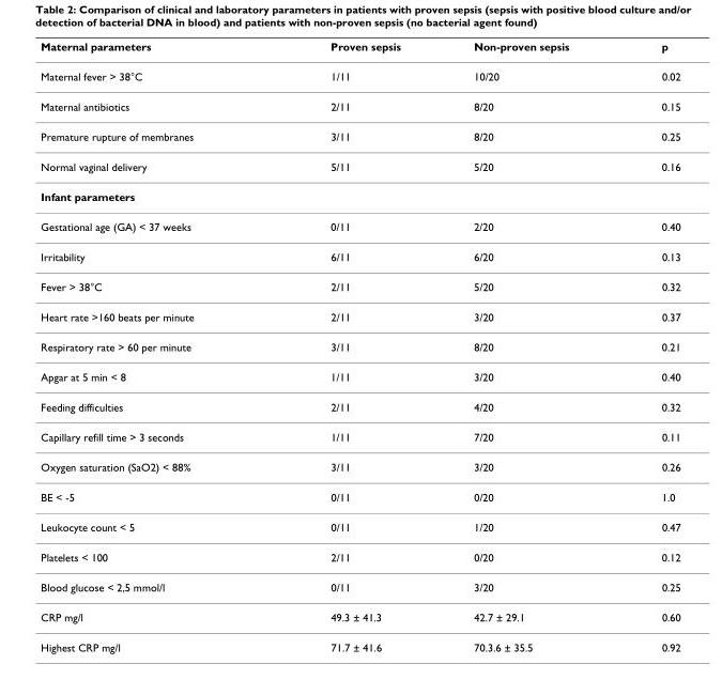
<table><thead><tr><td>Maternal parameters</td><td>Proven sepsis</td><td>Non-proven sepsis</td><td>p</td></tr></thead><tbody><tr><td>Maternal fever &gt; 38°C</td><td>1/11</td><td>10/20</td><td>0.02</td></tr><tr><td>Maternal antibiotics</td><td>2/11</td><td>8/20</td><td>0.15</td></tr><tr><td>Premature rupture of membranes</td><td>3/11</td><td>8/20</td><td>0.25</td></tr><tr><td>Normal vaginal delivery</td><td>5/11</td><td>5/20</td><td>0.16</td></tr><tr><td colspan="4">Infant parameters</td></tr><tr><td>Gestational age (GA) &lt; 37 weeks</td><td>0/11</td><td>2/20</td><td>0.40</td></tr><tr><td>Irritability</td><td>6/11</td><td>6/20</td><td>0.13</td></tr><tr><td>Fever &gt; 38°C</td><td>2/11</td><td>5/20</td><td>0.32</td></tr><tr><td>Heart rate &gt;160 beats per minute</td><td>2/11</td><td>3/20</td><td>0.37</td></tr><tr><td>Respiratory rate &gt; 60 per minute</td><td>3/11</td><td>8/20</td><td>0.21</td></tr><tr><td>Apgar at 5 min &lt; 8</td><td>1/11</td><td>3/20</td><td>0.40</td></tr><tr><td>Feeding difficulties</td><td>2/11</td><td>4/20</td><td>0.32</td></tr><tr><td>Capillary refill time &gt; 3 seconds</td><td>1/11</td><td>7/20</td><td>0.11</td></tr><tr><td>Oxygen saturation (SaO2) &lt; 88%</td><td>3/11</td><td>3/20</td><td>0.26</td></tr><tr><td>BE &lt; -5</td><td>0/11</td><td>0/20</td><td>1.0</td></tr><tr><td>Leukocyte count &lt; 5</td><td>0/11</td><td>1/20</td><td>0.47</td></tr><tr><td>Platelets &lt; 100</td><td>2/11</td><td>0/20</td><td>0.12</td></tr><tr><td>Blood glucose &lt; 2,5 mmol/l</td><td>0/11</td><td>3/20</td><td>0.25</td></tr><tr><td>CRP mg/l</td><td>49.3 ± 41.3</td><td>42.7 ± 29.1</td><td>0.60</td></tr><tr><td>Highest CRP mg/l</td><td>71.7 ± 41.6</td><td>70.3.6 ± 35.5</td><td>0.92</td></tr></tbody></table>